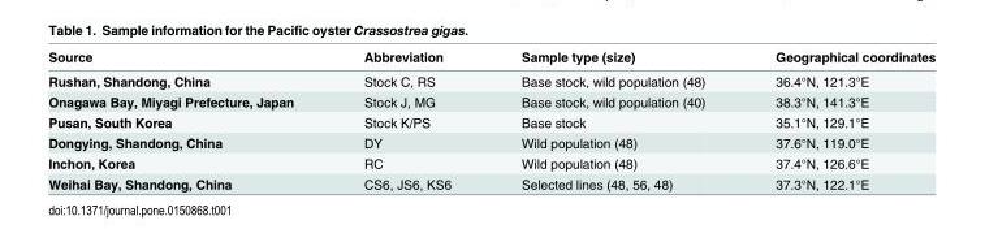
<table><thead><tr><td>Source</td><td>Abbreviation</td><td>Sample type (size)</td><td>Geographical coordinates</td></tr></thead><tbody><tr><td>Rushan, Shandong, China</td><td>Stock C, RS</td><td>Base stock, wild population (48)</td><td>36.4°N, 121.3°E</td></tr><tr><td>Onagawa Bay, Miyagi Prefecture, Japan</td><td>Stock J, MG</td><td>Base stock, wild population (40)</td><td>38.3°N, 141.3°E</td></tr><tr><td>Pusan, South Korea</td><td>Stock K/PS</td><td>Base stock</td><td>35.1°N, 129.1°E</td></tr><tr><td>Dongying, Shandong, China</td><td>DY</td><td>Wild population (48)</td><td>37.6°N, 119.0°E</td></tr><tr><td>Inchon, Korea</td><td>RC</td><td>Wild population (48)</td><td>37.4°N, 126.6°E</td></tr><tr><td>Weihai Bay, Shandong, China</td><td>CS6, JS6, KS6</td><td>Selected lines (48, 56, 48)</td><td>37.3°N, 122.1°E</td></tr></tbody></table>